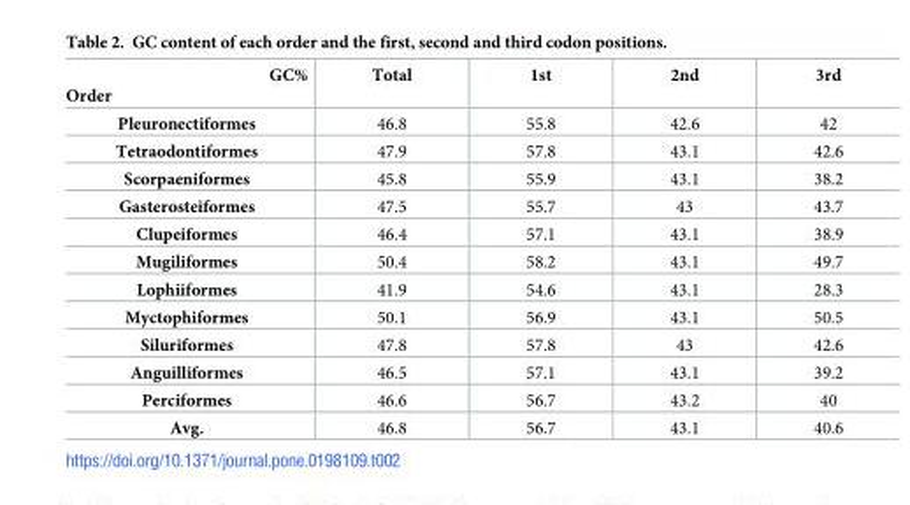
<table><thead><tr><td>GC% Order</td><td>Total</td><td>1st</td><td>2nd</td><td>3rd</td></tr></thead><tbody><tr><td>Pleuronectiformes</td><td>46.8</td><td>55.8</td><td>42.6</td><td>42</td></tr><tr><td>Tetraodontiformes</td><td>47.9</td><td>57.8</td><td>43.1</td><td>42.6</td></tr><tr><td>Scorpaeniformes</td><td>45.8</td><td>55.9</td><td>43.1</td><td>38.2</td></tr><tr><td>Gasterosteiformes</td><td>47.5</td><td>55.7</td><td>43</td><td>43.7</td></tr><tr><td>Clupeiformes</td><td>46.4</td><td>57.1</td><td>43.1</td><td>38.9</td></tr><tr><td>Mugiliformes</td><td>50.4</td><td>58.2</td><td>43.1</td><td>49.7</td></tr><tr><td>Lophiiformes</td><td>41.9</td><td>54.6</td><td>43.1</td><td>28.3</td></tr><tr><td>Myctophiformes</td><td>50.1</td><td>56.9</td><td>43.1</td><td>50.5</td></tr><tr><td>Siluriformes</td><td>47.8</td><td>57.8</td><td>43</td><td>42.6</td></tr><tr><td>Anguilliformes</td><td>46.5</td><td>57.1</td><td>43.1</td><td>39.2</td></tr><tr><td>Perciformes</td><td>46.6</td><td>56.7</td><td>43.2</td><td>40</td></tr><tr><td>Avg.</td><td>46.8</td><td>56.7</td><td>43.1</td><td>40.6</td></tr></tbody></table>